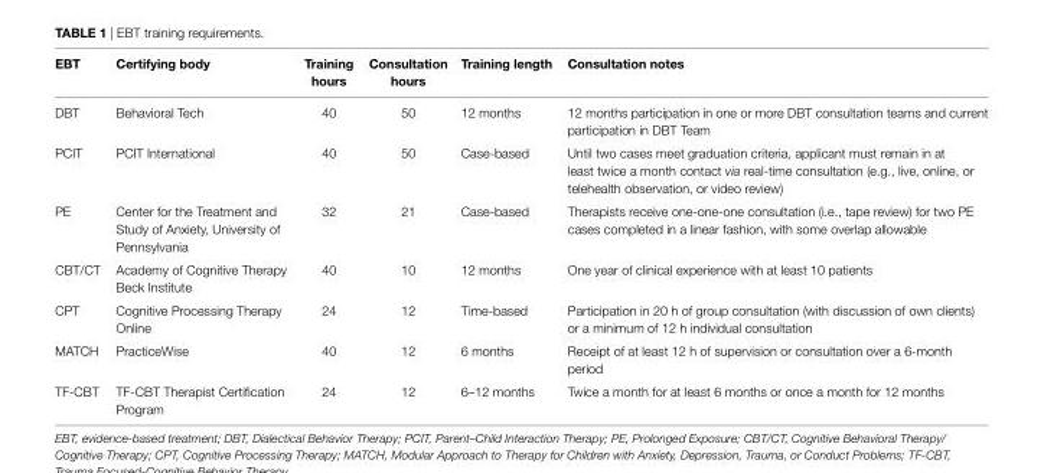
<table><thead><tr><td>eBT</td><td>certifying body</td><td>Training hours</td><td>consultation hours</td><td>Training length</td><td>consultation notes</td></tr></thead><tbody><tr><td>DBT</td><td>Behavioral Tech</td><td>40</td><td>50</td><td>12 months</td><td>12 months participation in one or more DBT consultation teams and current participation in DBT Team</td></tr><tr><td>PCIT</td><td>PCIT International</td><td>40</td><td>50</td><td>Case-based</td><td>Until two cases meet graduation criteria, applicant must remain in at least twice a month contact via real-time consultation (e.g., live, online, or telehealth observation, or video review)</td></tr><tr><td>PE</td><td>Center for the Treatment and Study of Anxiety, University of Pennsylvania</td><td>32</td><td>21</td><td>Case-based</td><td>Therapists receive one-one-one consultation (i.e., tape review) for two PE cases completed in a linear fashion, with some overlap allowable</td></tr><tr><td>CBT/CT</td><td>Academy of Cognitive Therapy Beck Institute</td><td>40</td><td>10</td><td>12 months</td><td>One year of clinical experience with at least 10 patients</td></tr><tr><td>CPT</td><td>Cognitive Processing Therapy Online</td><td>24</td><td>12</td><td>Time-based</td><td>Participation in 20 h of group consultation (with discussion of own clients) or a minimum of 12 h individual consultation</td></tr><tr><td>MATCH</td><td>PracticeWise</td><td>40</td><td>12</td><td>6 months</td><td>Receipt of at least 12 h of supervision or consultation over a 6-month period</td></tr><tr><td>TF-CBT</td><td>TF-CBT Therapist Certification Program</td><td>24</td><td>12</td><td>6–12 months</td><td>Twice a month for at least 6 months or once a month for 12 months</td></tr></tbody></table>